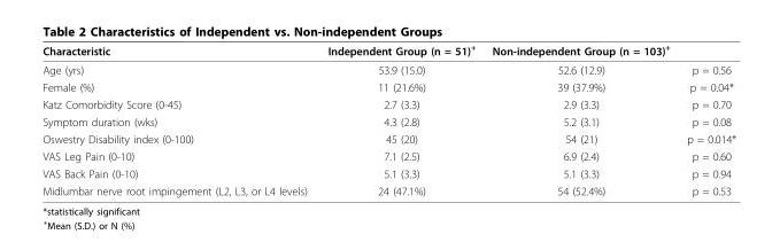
<table><thead><tr><td>Characteristic</td><td>Independent Group (n = 51)<sup>+</sup></td><td>Non-independent Group (n = 103)<sup>+</sup></td><td></td></tr></thead><tbody><tr><td>Age (yrs)</td><td>53.9 (15.0)</td><td>52.6 (12.9)</td><td>p = 0.56</td></tr><tr><td>Female (%)</td><td>11 (21.6%)</td><td>39 (37.9%)</td><td>p = 0.04*</td></tr><tr><td>Katz Comorbidity Score (0-45)</td><td>2.7 (3.3)</td><td>2.9 (3.3)</td><td>p = 0.70</td></tr><tr><td>Symptom duration (wks)</td><td>4.3 (2.8)</td><td>5.2 (3.1)</td><td>p = 0.08</td></tr><tr><td>Oswestry Disability index (0-100)</td><td>45 (20)</td><td>54 (21)</td><td>p = 0.014*</td></tr><tr><td>VAS Leg Pain (0-10)</td><td>7.1 (2.5)</td><td>6.9 (2.4)</td><td>p = 0.60</td></tr><tr><td>VAS Back Pain (0-10)</td><td>5.1 (3.3)</td><td>5.1 (3.3)</td><td>p = 0.94</td></tr><tr><td>Midlumbar nerve root impingement (L2, L3, or L4 levels)</td><td>24 (47.1%)</td><td>54 (52.4%)</td><td>p = 0.53</td></tr></tbody></table>